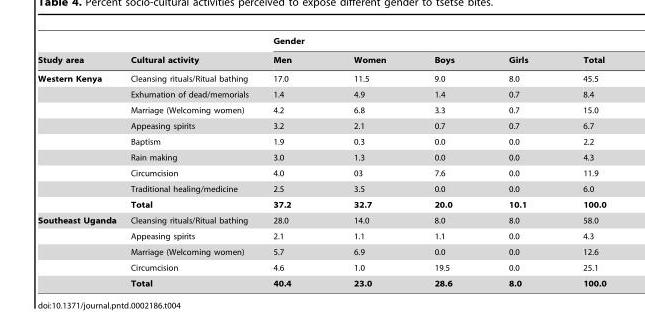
<table><thead><tr><td rowspan="2">Study area</td><td rowspan="2">Cultural activity</td><td colspan="5">Gender</td></tr><tr><td>Men</td><td>Women</td><td>Boys</td><td>Girls</td><td>Total</td></tr></thead><tbody><tr><td rowspan="9">Western Kenya</td><td>Cleansing rituals/Ritual bathing</td><td>17.0</td><td>11.5</td><td>9.0</td><td>8.0</td><td>45.5</td></tr><tr><td>Exhumation of dead/memorials</td><td>1.4</td><td>4.9</td><td>1.4</td><td>0.7</td><td>8.4</td></tr><tr><td>Marriage (Welcoming women)</td><td>4.2</td><td>6.8</td><td>3.3</td><td>0.7</td><td>15.0</td></tr><tr><td>Appeasing spirits</td><td>3.2</td><td>2.1</td><td>0.7</td><td>0.7</td><td>6.7</td></tr><tr><td>Baptism</td><td>1.9</td><td>0.3</td><td>0.0</td><td>0.0</td><td>2.2</td></tr><tr><td>Rain making</td><td>3.0</td><td>1.3</td><td>0.0</td><td>0.0</td><td>4.3</td></tr><tr><td>Circumcision</td><td>4.0</td><td>03</td><td>7.6</td><td>0.0</td><td>11.9</td></tr><tr><td>Traditional healing/medicine</td><td>2.5</td><td>3.5</td><td>0.0</td><td>0.0</td><td>6.0</td></tr><tr><td>Total</td><td>37.2</td><td>32.7</td><td>20.0</td><td>10.1</td><td>100.0</td></tr><tr><td rowspan="5">Southeast Uganda</td><td>Cleansing rituals/Ritual bathing</td><td>28.0</td><td>14.0</td><td>8.0</td><td>8.0</td><td>58.0</td></tr><tr><td>Appeasing spirits</td><td>2.1</td><td>1.1</td><td>1.1</td><td>0.0</td><td>4.3</td></tr><tr><td>Marriage (Welcoming women)</td><td>5.7</td><td>6.9</td><td>0.0</td><td>0.0</td><td>12.6</td></tr><tr><td>Circumcision</td><td>4.6</td><td>1.0</td><td>19.5</td><td>0.0</td><td>25.1</td></tr><tr><td>Total</td><td>40.4</td><td>23.0</td><td>28.6</td><td>8.0</td><td>100.0</td></tr></tbody></table>